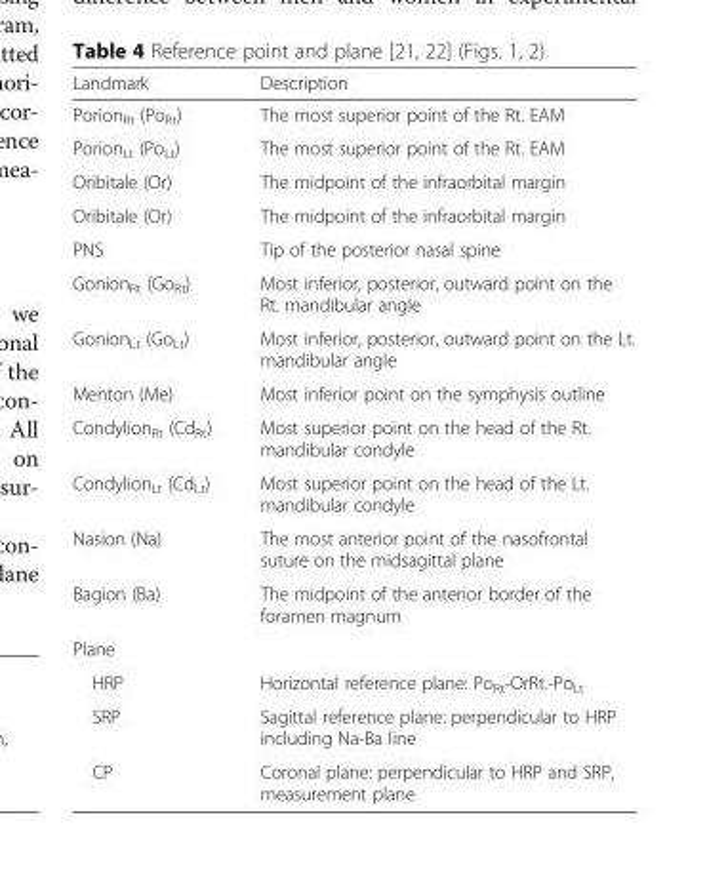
<table><thead><tr><td>Landmark</td><td>Description</td></tr></thead><tbody><tr><td>Porion<sub>Rt</sub> (Po<sub>Rt</sub>)</td><td>The most superior point of the Rt. EAM</td></tr><tr><td>Porion<sub>Lt</sub> (Po<sub>Lt</sub>)</td><td>The most superior point of the Rt. EAM</td></tr><tr><td>Oribitale (Or)</td><td>The midpoint of the infraorbital margin</td></tr><tr><td>Oribitale (Or)</td><td>The midpoint of the infraorbital margin</td></tr><tr><td>PNS</td><td>Tip of the posterior nasal spine</td></tr><tr><td>Gonion<sub>Rt</sub> (Go<sub>Rt</sub>)</td><td>Most inferior, posterior, outward point on the Rt. mandibular angle</td></tr><tr><td>Gonion<sub>Lt</sub> (Go<sub>Lt</sub>)</td><td>Most inferior, posterior, outward point on the Lt. mandibular angle</td></tr><tr><td>Menton (Me)</td><td>Most inferior point on the symphysis outline</td></tr><tr><td>Condylion<sub>Rt</sub> (Cd<sub>Rt</sub>)</td><td>Most superior point on the head of the Rt. mandibular condyle</td></tr><tr><td>Condylion<sub>Lt</sub> (Cd<sub>Lt</sub>)</td><td>Most superior point on the head of the Lt. mandibular condyle</td></tr><tr><td>Nasion (Na)</td><td>The most anterior point of the nasofrontal suture on the midsagittal plane</td></tr><tr><td>Bagion (Ba)</td><td>The midpoint of the anterior border of the foramen magnum</td></tr><tr><td colspan="2">Plane</td></tr><tr><td>HRP</td><td>Horizontal reference plane: Po<sub>Rt</sub>-OrRt.-Po<sub>Lt</sub></td></tr><tr><td>SRP</td><td>Sagittal reference plane: perpendicular to HRP including Na-Ba line</td></tr><tr><td>CP</td><td>Coronal plane: perpendicular to HRP and SRP, measurement plane</td></tr></tbody></table>